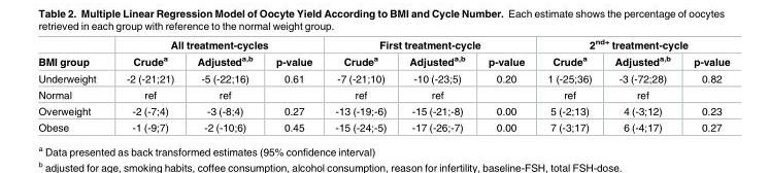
<table><thead><tr><td rowspan="2">BMI group</td><td colspan="3">All treatment-cycles</td><td colspan="3">First treatment-cycle</td><td colspan="3">2<sup>nd+</sup> treatment-cycle</td></tr><tr><td>Crude<sup>a</sup></td><td>Adjusted<sup>a,b</sup></td><td>p-value</td><td>Crude<sup>a</sup></td><td>Adjusted<sup>a,b</sup></td><td>p-value</td><td>Crude<sup>a</sup></td><td>Adjusted<sup>a,b</sup></td><td>p-value</td></tr></thead><tbody><tr><td>Underweight</td><td>-2 (-21;21)</td><td>-5 (-22;16)</td><td>0.61</td><td>-7 (-21;10)</td><td>-10 (-23;5)</td><td>0.20</td><td>1 (-25;36)</td><td>-3 (-72;28)</td><td>0.82</td></tr><tr><td>Normal</td><td>ref</td><td>ref</td><td></td><td>ref</td><td>ref</td><td></td><td>ref</td><td>ref</td><td></td></tr><tr><td>Overweight</td><td>-2 (-7;4)</td><td>-3 (-8;4)</td><td>0.27</td><td>-13 (-19;-6)</td><td>-15 (-21;-8)</td><td>0.00</td><td>5 (-2;13)</td><td>4 (-3;12)</td><td>0.23</td></tr><tr><td>Obese</td><td>-1 (-9;7)</td><td>-2 (-10;6)</td><td>0.45</td><td>-15 (-24;-5)</td><td>-17 (-26;-7)</td><td>0.00</td><td>7 (-3;17)</td><td>6 (-4;17)</td><td>0.27</td></tr></tbody></table>